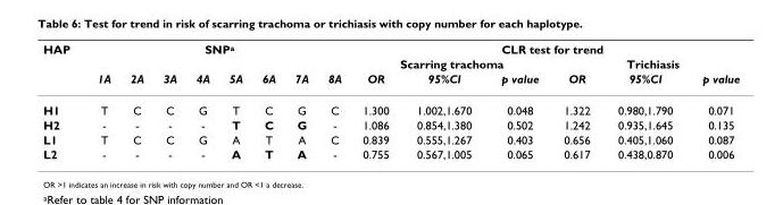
<table><thead><tr><td rowspan="3">HAP</td><td colspan="8">SNP<sup>a</sup></td><td colspan="6">CLR test for trend</td></tr><tr><td rowspan="2">1A</td><td rowspan="2">2A</td><td rowspan="2">3A</td><td rowspan="2">4A</td><td rowspan="2">5A</td><td rowspan="2">6A</td><td rowspan="2">7A</td><td rowspan="2">8A</td><td colspan="3">Scarring trachoma</td><td colspan="3">Trichiasis</td></tr><tr><td>OR</td><td>95%CI</td><td>p value</td><td>OR</td><td>95%CI</td><td>p value</td></tr></thead><tbody><tr><td>H1</td><td>T</td><td>C</td><td>C</td><td>G</td><td>T</td><td>C</td><td>G</td><td>C</td><td>1.300</td><td>1.002,1.670</td><td>0.048</td><td>1.322</td><td>0.980,1.790</td><td>0.071</td></tr><tr><td>H2</td><td>-</td><td>-</td><td>-</td><td>-</td><td>T</td><td>C</td><td>G</td><td>-</td><td>1.086</td><td>0.854,1.380</td><td>0.502</td><td>1.242</td><td>0.935,1.645</td><td>0.135</td></tr><tr><td>L1</td><td>T</td><td>C</td><td>C</td><td>G</td><td>A</td><td>T</td><td>A</td><td>C</td><td>0.839</td><td>0.555,1.267</td><td>0.403</td><td>0.656</td><td>0.405,1.060</td><td>0.087</td></tr><tr><td>L2</td><td>-</td><td>-</td><td>-</td><td>-</td><td>A</td><td>T</td><td>A</td><td>-</td><td>0.755</td><td>0.567,1.005</td><td>0.065</td><td>0.617</td><td>0.438,0.870</td><td>0.006</td></tr></tbody></table>